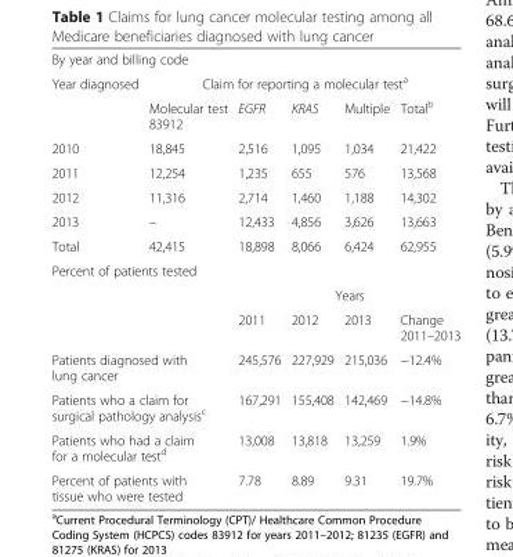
<table><tbody><tr><td colspan="6">By year and billing code</td></tr><tr><td rowspan="2">Year diagnosed</td><td colspan="5">Claim for reporting a molecular test<sup>a</sup></td></tr><tr><td>Molecular test 83912</td><td>EGFR</td><td>KRAS</td><td>Multiple</td><td>Total<sup>b</sup></td></tr><tr><td>2010</td><td>18,845</td><td>2,516</td><td>1,095</td><td>1,034</td><td>21,422</td></tr><tr><td>2011</td><td>12,254</td><td>1,235</td><td>655</td><td>576</td><td>13,568</td></tr><tr><td>2012</td><td>11,316</td><td>2,714</td><td>1,460</td><td>1,188</td><td>14,302</td></tr><tr><td>2013</td><td>–</td><td>12,433</td><td>4,856</td><td>3,626</td><td>13,663</td></tr><tr><td>Total</td><td>42,415</td><td>18,898</td><td>8,066</td><td>6,424</td><td>62,955</td></tr><tr><td colspan="6">Percent of patients tested</td></tr><tr><td rowspan="2" colspan="2"></td><td colspan="4">Years</td></tr><tr><td>2011</td><td>2012</td><td>2013</td><td>Change 2011–2013</td></tr><tr><td colspan="2">Patients diagnosed with lung cancer</td><td>245,576</td><td>227,929</td><td>215,036</td><td>−12.4%</td></tr><tr><td colspan="2">Patients who a claim for surgical pathology analysis<sup>c</sup></td><td>167,291</td><td>155,408</td><td>142,469</td><td>−14.8%</td></tr><tr><td colspan="2">Patients who had a claim for a molecular test<sup>d</sup></td><td>13,008</td><td>13,818</td><td>13,259</td><td>1.9%</td></tr><tr><td colspan="2">Percent of patients with tissue who were tested</td><td>7.78</td><td>8.89</td><td>9.31</td><td>19.7%</td></tr></tbody></table>